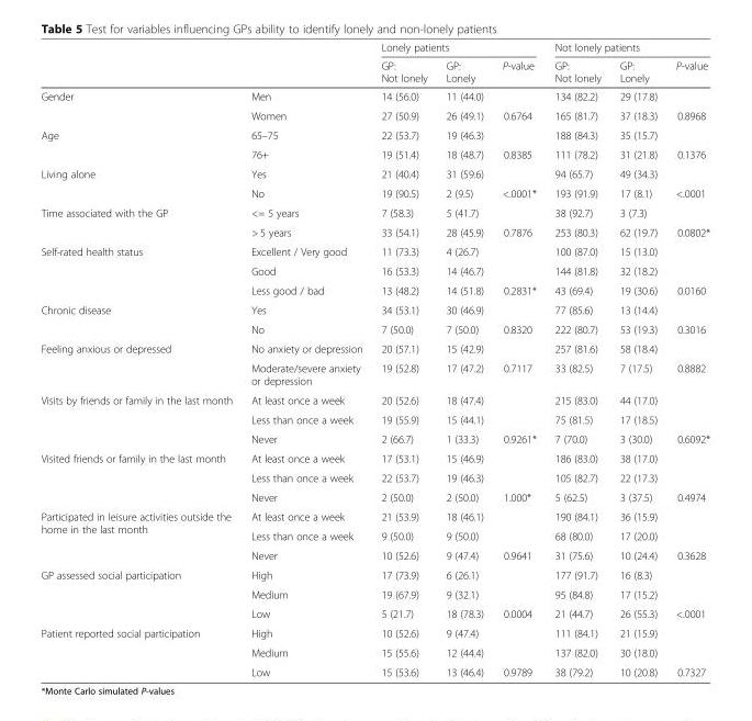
<table><thead><tr><td rowspan="2"></td><td rowspan="2"></td><td colspan="3">Lonely patients</td><td colspan="3">Not lonely patients</td></tr><tr><td>GP: Not lonely</td><td>GP: Lonely</td><td>P-value</td><td>GP: Not lonely</td><td>GP: Lonely</td><td>P-value</td></tr></thead><tbody><tr><td rowspan="2">Gender</td><td>Men</td><td>14 (56.0)</td><td>11 (44.0)</td><td></td><td>134 (82.2)</td><td>29 (17.8)</td><td></td></tr><tr><td>Women</td><td>27 (50.9)</td><td>26 (49.1)</td><td>0.6764</td><td>165 (81.7)</td><td>37 (18.3)</td><td>0.8968</td></tr><tr><td rowspan="2">Age</td><td>65–75</td><td>22 (53.7)</td><td>19 (46.3)</td><td></td><td>188 (84.3)</td><td>35 (15.7)</td><td></td></tr><tr><td>76+</td><td>19 (51.4)</td><td>18 (48.7)</td><td>0.8385</td><td>111 (78.2)</td><td>31 (21.8)</td><td>0.1376</td></tr><tr><td rowspan="2">Living alone</td><td>Yes</td><td>21 (40.4)</td><td>31 (59.6)</td><td></td><td>94 (65.7)</td><td>49 (34.3)</td><td></td></tr><tr><td>No</td><td>19 (90.5)</td><td>2 (9.5)</td><td>&lt;.0001*</td><td>193 (91.9)</td><td>17 (8.1)</td><td>&lt;.0001</td></tr><tr><td rowspan="2">Time associated with the GP</td><td>&lt;= 5 years</td><td>7 (58.3)</td><td>5 (41.7)</td><td></td><td>38 (92.7)</td><td>3 (7.3)</td><td></td></tr><tr><td>&gt; 5 years</td><td>33 (54.1)</td><td>28 (45.9)</td><td>0.7876</td><td>253 (80.3)</td><td>62 (19.7)</td><td>0.0802*</td></tr><tr><td rowspan="3">Self-rated health status</td><td>Excellent / Very good</td><td>11 (73.3)</td><td>4 (26.7)</td><td></td><td>100 (87.0)</td><td>15 (13.0)</td><td></td></tr><tr><td>Good</td><td>16 (53.3)</td><td>14 (46.7)</td><td></td><td>144 (81.8)</td><td>32 (18.2)</td><td></td></tr><tr><td>Less good / bad</td><td>13 (48.2)</td><td>14 (51.8)</td><td>0.2831*</td><td>43 (69.4)</td><td>19 (30.6)</td><td>0.0160</td></tr><tr><td rowspan="2">Chronic disease</td><td>Yes</td><td>34 (53.1)</td><td>30 (46.9)</td><td></td><td>77 (85.6)</td><td>13 (14.4)</td><td></td></tr><tr><td>No</td><td>7 (50.0)</td><td>7 (50.0)</td><td>0.8320</td><td>222 (80.7)</td><td>53 (19.3)</td><td>0.3016</td></tr><tr><td rowspan="2">Feeling anxious or depressed</td><td>No anxiety or depression</td><td>20 (57.1)</td><td>15 (42.9)</td><td></td><td>257 (81.6)</td><td>58 (18.4)</td><td></td></tr><tr><td>Moderate/severe anxiety or depression</td><td>19 (52.8)</td><td>17 (47.2)</td><td>0.7117</td><td>33 (82.5)</td><td>7 (17.5)</td><td>0.8882</td></tr><tr><td rowspan="3">Visits by friends or family in the last month</td><td>At least once a week</td><td>20 (52.6)</td><td>18 (47.4)</td><td></td><td>215 (83.0)</td><td>44 (17.0)</td><td></td></tr><tr><td>Less than once a week</td><td>19 (55.9)</td><td>15 (44.1)</td><td></td><td>75 (81.5)</td><td>17 (18.5)</td><td></td></tr><tr><td>Never</td><td>2 (66.7)</td><td>1 (33.3)</td><td>0.9261*</td><td>7 (70.0)</td><td>3 (30.0)</td><td>0.6092*</td></tr><tr><td rowspan="3">Visited friends or family in the last month</td><td>At least once a week</td><td>17 (53.1)</td><td>15 (46.9)</td><td></td><td>186 (83.0)</td><td>38 (17.0)</td><td></td></tr><tr><td>Less than once a week</td><td>22 (53.7)</td><td>19 (46.3)</td><td></td><td>105 (82.7)</td><td>22 (17.3)</td><td></td></tr><tr><td>Never</td><td>2 (50.0)</td><td>2 (50.0)</td><td>1.000*</td><td>5 (62.5)</td><td>3 (37.5)</td><td>0.4974</td></tr><tr><td rowspan="3">Participated in leisure activities outside the home in the last month</td><td>At least once a week</td><td>21 (53.9)</td><td>18 (46.1)</td><td></td><td>190 (84.1)</td><td>36 (15.9)</td><td></td></tr><tr><td>Less than once a week</td><td>9 (50.0)</td><td>9 (50.0)</td><td></td><td>68 (80.0)</td><td>17 (20.0)</td><td></td></tr><tr><td>Never</td><td>10 (52.6)</td><td>9 (47.4)</td><td>0.9641</td><td>31 (75.6)</td><td>10 (24.4)</td><td>0.3628</td></tr><tr><td rowspan="3">GP assessed social participation</td><td>High</td><td>17 (73.9)</td><td>6 (26.1)</td><td></td><td>177 (91.7)</td><td>16 (8.3)</td><td></td></tr><tr><td>Medium</td><td>19 (67.9)</td><td>9 (32.1)</td><td></td><td>95 (84.8)</td><td>17 (15.2)</td><td></td></tr><tr><td>Low</td><td>5 (21.7)</td><td>18 (78.3)</td><td>0.0004</td><td>21 (44.7)</td><td>26 (55.3)</td><td>&lt;.0001</td></tr><tr><td rowspan="3">Patient reported social participation</td><td>High</td><td>10 (52.6)</td><td>9 (47.4)</td><td></td><td>111 (84.1)</td><td>21 (15.9)</td><td></td></tr><tr><td>Medium</td><td>15 (55.6)</td><td>12 (44.4)</td><td></td><td>137 (82.0)</td><td>30 (18.0)</td><td></td></tr><tr><td>Low</td><td>15 (53.6)</td><td>13 (46.4)</td><td>0.9789</td><td>38 (79.2)</td><td>10 (20.8)</td><td>0.7327</td></tr></tbody></table>